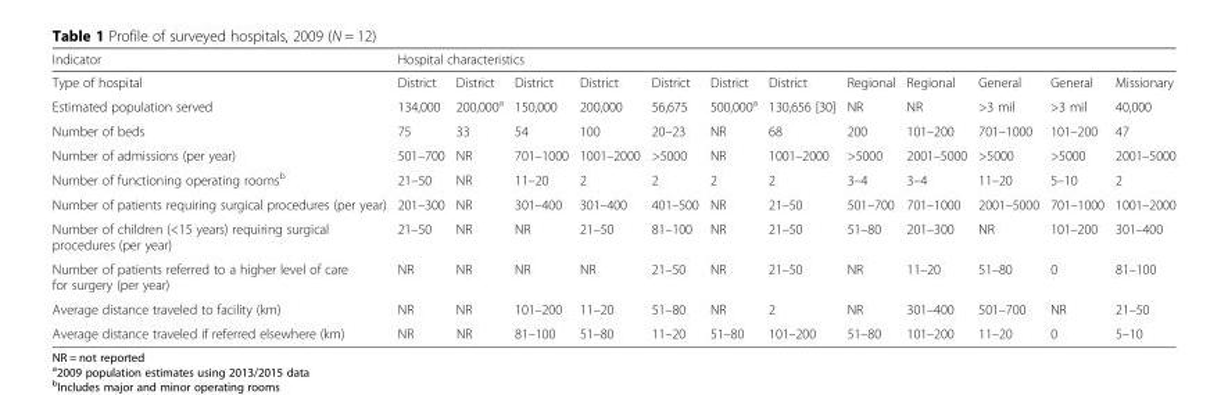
<table><thead><tr><td rowspan="2">Indicator Type of hospital</td><td colspan="12">Hospital characteristics</td></tr><tr><td>District</td><td>District</td><td>District</td><td>District</td><td>District</td><td>District</td><td>District</td><td>Regional</td><td>Regional</td><td>General</td><td>General</td><td>Missionary</td></tr></thead><tbody><tr><td>Estimated population served</td><td>134,000</td><td>200,000<sup>a</sup></td><td>150,000</td><td>200,000</td><td>56,675</td><td>500,000<sup>a</sup></td><td>130,656 [30]</td><td>NR</td><td>NR</td><td>&gt;3 mil</td><td>&gt;3 mil</td><td>40,000</td></tr><tr><td>Number of beds</td><td>75</td><td>33</td><td>54</td><td>100</td><td>20–23</td><td>NR</td><td>68</td><td>200</td><td>101–200</td><td>701–1000</td><td>101–200</td><td>47</td></tr><tr><td>Number of admissions (per year)</td><td>501–700</td><td>NR</td><td>701–1000</td><td>1001–2000</td><td>&gt;5000</td><td>NR</td><td>1001–2000</td><td>&gt;5000</td><td>2001–5000</td><td>&gt;5000</td><td>&gt;5000</td><td>2001–5000</td></tr><tr><td>Number of functioning operating rooms<sup>b</sup></td><td>21–50</td><td>NR</td><td>11–20</td><td>2</td><td>2</td><td>2</td><td>2</td><td>3–4</td><td>3–4</td><td>11–20</td><td>5–10</td><td>2</td></tr><tr><td>Number of patients requiring surgical procedures (per year)</td><td>201–300</td><td>NR</td><td>301–400</td><td>301–400</td><td>401–500</td><td>NR</td><td>21–50</td><td>501–700</td><td>701–1000</td><td>2001–5000</td><td>701–1000</td><td>1001–2000</td></tr><tr><td>Number of children (&lt;15 years) requiring surgical procedures (per year)</td><td>21–50</td><td>NR</td><td>NR</td><td>21–50</td><td>81–100</td><td>NR</td><td>21–50</td><td>51–80</td><td>201–300</td><td>NR</td><td>101–200</td><td>301–400</td></tr><tr><td>Number of patients referred to a higher level of care for surgery (per year)</td><td>NR</td><td>NR</td><td>NR</td><td>NR</td><td>21–50</td><td>NR</td><td>21–50</td><td>NR</td><td>11–20</td><td>51–80</td><td>0</td><td>81–100</td></tr><tr><td>Average distance traveled to facility (km)</td><td>NR</td><td>NR</td><td>101–200</td><td>11–20</td><td>51–80</td><td>NR</td><td>2</td><td>NR</td><td>301–400</td><td>501–700</td><td>NR</td><td>21–50</td></tr><tr><td>Average distance traveled if referred elsewhere (km)</td><td>NR</td><td>NR</td><td>81–100</td><td>51–80</td><td>11–20</td><td>51–80</td><td>101–200</td><td>51–80</td><td>101–200</td><td>11–20</td><td>0</td><td>5–10</td></tr></tbody></table>